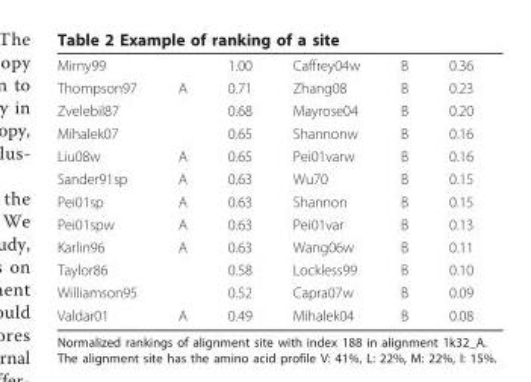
<table><tbody><tr><td>Mirny99</td><td></td><td>1.00</td><td>Caffrey04w</td><td>B</td><td>0.36</td></tr><tr><td>Thompson97</td><td>A</td><td>0.71</td><td>Zhang08</td><td>B</td><td>0.23</td></tr><tr><td>Zvelebil87</td><td></td><td>0.68</td><td>Mayrose04</td><td>B</td><td>0.20</td></tr><tr><td>Mihalek07</td><td></td><td>0.65</td><td>Shannonw</td><td>B</td><td>0.16</td></tr><tr><td>Liu08w</td><td>A</td><td>0.65</td><td>Pei01varw</td><td>B</td><td>0.16</td></tr><tr><td>Sander91sp</td><td>A</td><td>0.63</td><td>Wu70</td><td>B</td><td>0.15</td></tr><tr><td>Pei01sp</td><td>A</td><td>0.63</td><td>Shannon</td><td>B</td><td>0.15</td></tr><tr><td>Pei01spw</td><td>A</td><td>0.63</td><td>Pei01var</td><td>B</td><td>0.13</td></tr><tr><td>Karlin96</td><td>A</td><td>0.63</td><td>Wang06w</td><td>B</td><td>0.11</td></tr><tr><td>Taylor86</td><td></td><td>0.58</td><td>Lockless99</td><td>B</td><td>0.10</td></tr><tr><td>Williamson95</td><td></td><td>0.52</td><td>Capra07w</td><td>B</td><td>0.09</td></tr><tr><td>Valdar01</td><td>A</td><td>0.49</td><td>Mihalek04</td><td>B</td><td>0.08</td></tr></tbody></table>